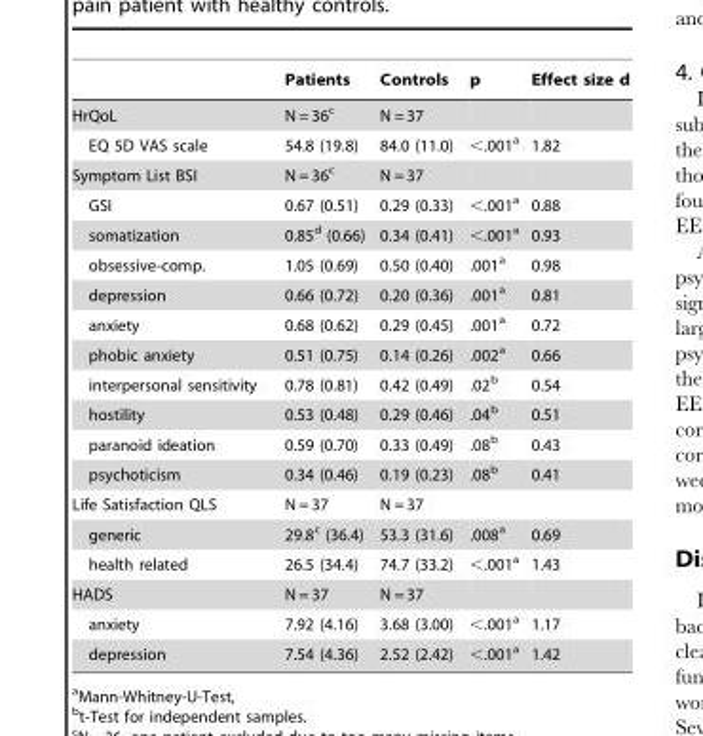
<table><thead><tr><td></td><td>Patients</td><td>Controls</td><td>p</td><td>Effect size d</td></tr></thead><tbody><tr><td>HrQoL</td><td>N = 36<sup>c</sup></td><td>N = 37</td><td></td><td></td></tr><tr><td>EQ 5D VAS scale</td><td>54.8 (19.8)</td><td>84.0 (11.0)</td><td>&lt;.001<sup>a</sup></td><td>1.82</td></tr><tr><td>Symptom List BSI</td><td>N = 36<sup>c</sup></td><td>N = 37</td><td></td><td></td></tr><tr><td>GSI</td><td>0.67 (0.51)</td><td>0.29 (0.33)</td><td>&lt;.001<sup>a</sup></td><td>0.88</td></tr><tr><td>somatization</td><td>0.85<sup>d</sup> (0.66)</td><td>0.34 (0.41)</td><td>&lt;.001<sup>a</sup></td><td>0.93</td></tr><tr><td>obsessive-comp.</td><td>1.05 (0.69)</td><td>0.50 (0.40)</td><td>.001<sup>a</sup></td><td>0.98</td></tr><tr><td>depression</td><td>0.66 (0.72)</td><td>0.20 (0.36)</td><td>.001<sup>a</sup></td><td>0.81</td></tr><tr><td>anxiety</td><td>0.68 (0.62)</td><td>0.29 (0.45)</td><td>.001<sup>a</sup></td><td>0.72</td></tr><tr><td>phobic anxiety</td><td>0.51 (0.75)</td><td>0.14 (0.26)</td><td>.002<sup>a</sup></td><td>0.66</td></tr><tr><td>interpersonal sensitivity</td><td>0.78 (0.81)</td><td>0.42 (0.49)</td><td>.02<sup>b</sup></td><td>0.54</td></tr><tr><td>hostility</td><td>0.53 (0.48)</td><td>0.29 (0.46)</td><td>.04<sup>b</sup></td><td>0.51</td></tr><tr><td>paranoid ideation</td><td>0.59 (0.70)</td><td>0.33 (0.49)</td><td>.08<sup>b</sup></td><td>0.43</td></tr><tr><td>psychoticism</td><td>0.34 (0.46)</td><td>0.19 (0.23)</td><td>.08<sup>b</sup></td><td>0.41</td></tr><tr><td>Life Satisfaction QLS</td><td>N = 37</td><td>N = 37</td><td></td><td></td></tr><tr><td>generic</td><td>29.8<sup>c</sup> (36.4)</td><td>53.3 (31.6)</td><td>.008<sup>a</sup></td><td>0.69</td></tr><tr><td>health related</td><td>26.5 (34.4)</td><td>74.7 (33.2)</td><td>&lt;.001<sup>a</sup></td><td>1.43</td></tr><tr><td>HADS</td><td>N = 37</td><td>N = 37</td><td></td><td></td></tr><tr><td>anxiety</td><td>7.92 (4.16)</td><td>3.68 (3.00)</td><td>&lt;.001<sup>a</sup></td><td>1.17</td></tr><tr><td>depression</td><td>7.54 (4.36)</td><td>2.52 (2.42)</td><td>&lt;.001<sup>a</sup></td><td>1.42</td></tr></tbody></table>